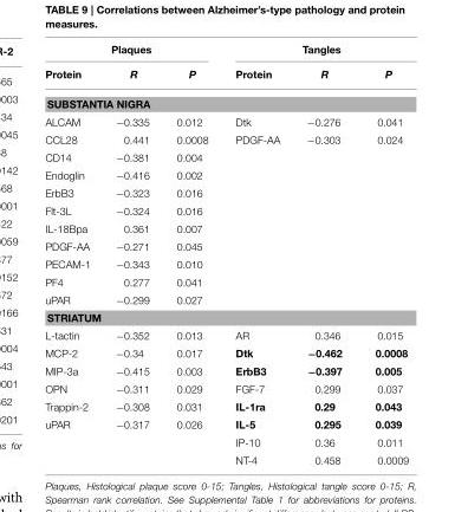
<table><thead><tr><td colspan="3">Plaques</td><td colspan="3">Tangles</td></tr><tr><td>Protein</td><td>R</td><td>P</td><td>Protein</td><td>R</td><td>P</td></tr></thead><tbody><tr><td colspan="6">SUBSTANTIA NIGRA</td></tr><tr><td>ALCAM</td><td>−0.335</td><td>0.012</td><td>Dtk</td><td>−0.276</td><td>0.041</td></tr><tr><td>CCL28</td><td>0.441</td><td>0.0008</td><td>PDGF-AA</td><td>−0.303</td><td>0.024</td></tr><tr><td>CD14</td><td>−0.381</td><td>0.004</td><td></td><td></td><td></td></tr><tr><td>Endoglin</td><td>−0.416</td><td>0.002</td><td></td><td></td><td></td></tr><tr><td>ErbB3</td><td>−0.323</td><td>0.016</td><td></td><td></td><td></td></tr><tr><td>Flt-3L</td><td>−0.324</td><td>0.016</td><td></td><td></td><td></td></tr><tr><td>IL-18Bpa</td><td>0.361</td><td>0.007</td><td></td><td></td><td></td></tr><tr><td>PDGF-AA</td><td>−0.271</td><td>0.045</td><td></td><td></td><td></td></tr><tr><td>PECAM-1</td><td>−0.343</td><td>0.010</td><td></td><td></td><td></td></tr><tr><td>PF4</td><td>0.277</td><td>0.041</td><td></td><td></td><td></td></tr><tr><td>uPAR</td><td>−0.299</td><td>0.027</td><td></td><td></td><td></td></tr><tr><td colspan="6">STRIATUM</td></tr><tr><td>L-tactin</td><td>−0.352</td><td>0.013</td><td>AR</td><td>0.346</td><td>0.015</td></tr><tr><td>MCP-2</td><td>−0.34</td><td>0.017</td><td>Dtk</td><td>−0.462</td><td>0.0008</td></tr><tr><td>MIP-3a</td><td>−0.415</td><td>0.003</td><td>ErbB3</td><td>−0.397</td><td>0.005</td></tr><tr><td>OPN</td><td>−0.311</td><td>0.029</td><td>FGF-7</td><td>0.299</td><td>0.037</td></tr><tr><td>Trappin-2</td><td>−0.308</td><td>0.031</td><td>IL-1ra</td><td>0.29</td><td>0.043</td></tr><tr><td rowspan="3">uPAR</td><td>−0.317</td><td>0.026</td><td>IL-5</td><td>0.295</td><td>0.039</td></tr><tr><td></td><td></td><td>IP-10</td><td>0.36</td><td>0.011</td></tr><tr><td></td><td></td><td>NT-4</td><td>0.458</td><td>0.0009</td></tr></tbody></table>